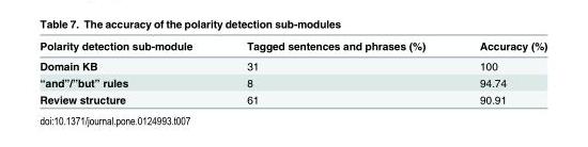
<table><thead><tr><td>Polarity detection sub-module</td><td>Tagged sentences and phrases (%)</td><td>Accuracy (%)</td></tr></thead><tbody><tr><td>Domain KB</td><td>31</td><td>100</td></tr><tr><td>“and”/”but” rules</td><td>8</td><td>94.74</td></tr><tr><td>Review structure</td><td>61</td><td>90.91</td></tr></tbody></table>